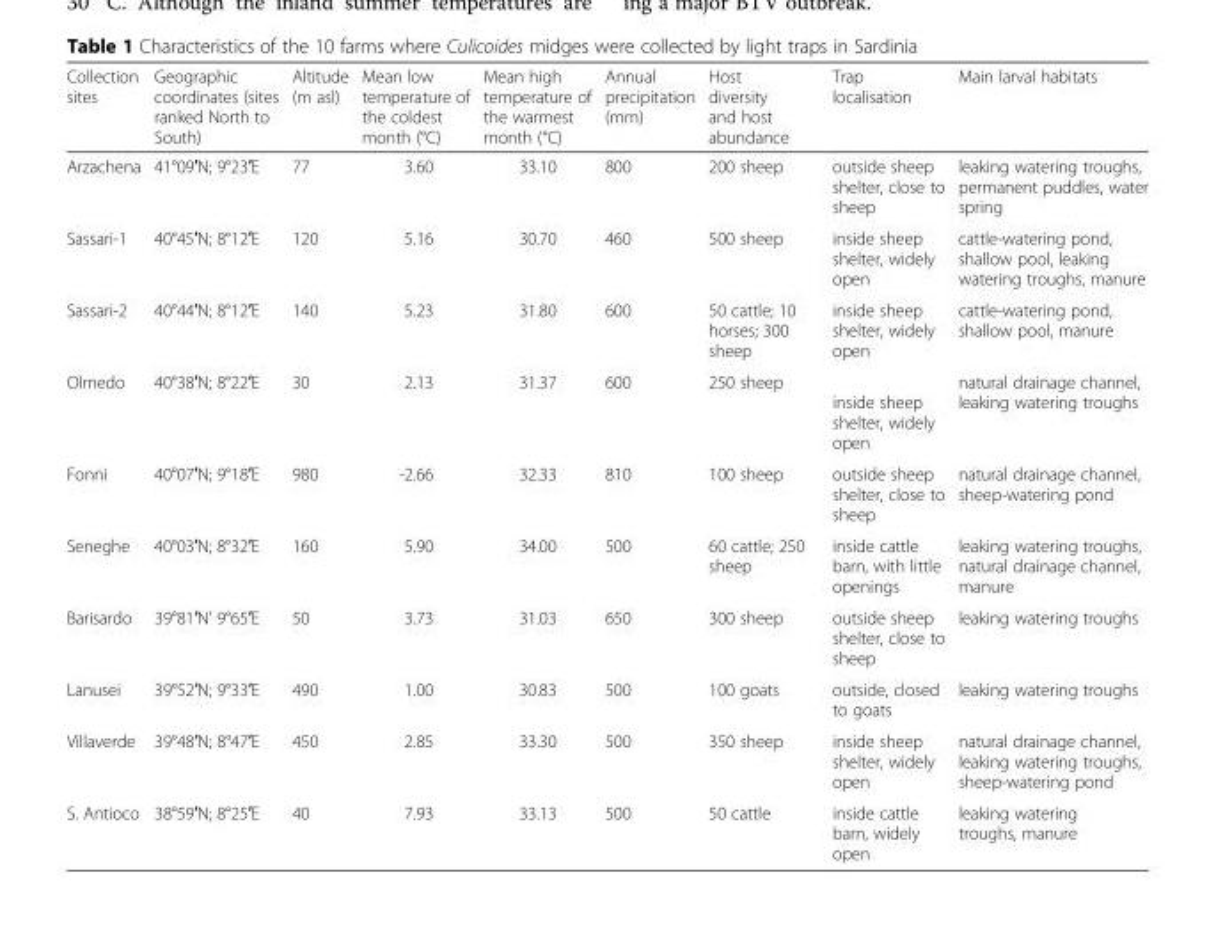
<table><thead><tr><td>Collection sites</td><td>Geographic coordinates (sites ranked North to South)</td><td>Altitude (m asl)</td><td>Mean low temperature of the coldest month (°C)</td><td>Mean high temperature of the warmest month (°C)</td><td>Annual precipitation (mm)</td><td>Host diversity and host abundance</td><td>Trap localisation</td><td>Main larval habitats</td></tr></thead><tbody><tr><td>Arzachena</td><td>41°09′N; 9°23′E</td><td>77</td><td>3.60</td><td>33.10</td><td>800</td><td>200 sheep</td><td>outside sheep shelter, close to sheep</td><td>leaking watering troughs, permanent puddles, water spring</td></tr><tr><td>Sassari-1</td><td>40°45′N; 8°12′E</td><td>120</td><td>5.16</td><td>30.70</td><td>460</td><td>500 sheep</td><td>inside sheep shelter, widely open</td><td>cattle-watering pond, shallow pool, leaking watering troughs, manure</td></tr><tr><td>Sassari-2</td><td>40°44′N; 8°12′E</td><td>140</td><td>5.23</td><td>31.80</td><td>600</td><td>50 cattle; 10 horses; 300 sheep</td><td>inside sheep shelter, widely open</td><td>cattle-watering pond, shallow pool, manure</td></tr><tr><td>Olmedo</td><td>40°38′N; 8°22′E</td><td>30</td><td>2.13</td><td>31.37</td><td>600</td><td>250 sheep</td><td>inside sheep shelter, widely open</td><td>natural drainage channel, leaking watering troughs</td></tr><tr><td>Fonni</td><td>40°07′N; 9°18′E</td><td>980</td><td>-2.66</td><td>32.33</td><td>810</td><td>100 sheep</td><td>outside sheep shelter, close to sheep</td><td>natural drainage channel, sheep-watering pond</td></tr><tr><td>Seneghe</td><td>40°03′N; 8°32′E</td><td>160</td><td>5.90</td><td>34.00</td><td>500</td><td>60 cattle; 250 sheep</td><td>inside cattle barn, with little openings</td><td>leaking watering troughs, natural drainage channel, manure</td></tr><tr><td>Barisardo</td><td>39°81′N’ 9°65′E</td><td>50</td><td>3.73</td><td>31.03</td><td>650</td><td>300 sheep</td><td>outside sheep shelter, close to sheep</td><td>leaking watering troughs</td></tr><tr><td>Lanusei</td><td>39°52′N; 9°33′E</td><td>490</td><td>1.00</td><td>30.83</td><td>500</td><td>100 goats</td><td>outside, closed to goats</td><td>leaking watering troughs</td></tr><tr><td>Villaverde</td><td>39°48′N; 8°47′E</td><td>450</td><td>2.85</td><td>33.30</td><td>500</td><td>350 sheep</td><td>inside sheep shelter, widely open</td><td>natural drainage channel, leaking watering troughs, sheep-watering pond</td></tr><tr><td>S. Antioco</td><td>38°59′N; 8°25′E</td><td>40</td><td>7.93</td><td>33.13</td><td>500</td><td>50 cattle</td><td>inside cattle barn, widely open</td><td>leaking watering troughs, manure</td></tr></tbody></table>